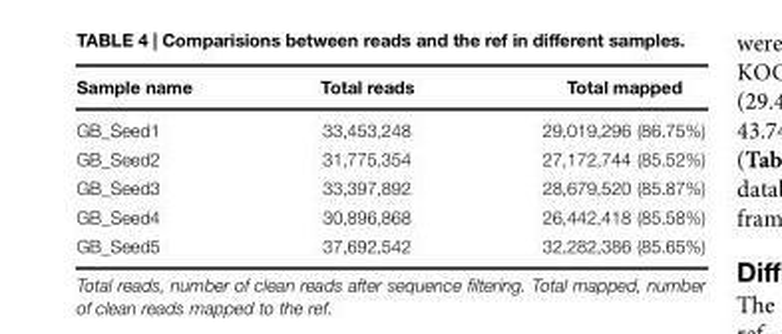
<table><thead><tr><td>Sample name</td><td>Total reads</td><td>Total mapped</td></tr></thead><tbody><tr><td>GB_Seed1</td><td>33,453,248</td><td>29,019,296 (86.75%)</td></tr><tr><td>GB_Seed2</td><td>31,775,354</td><td>27,172,744 (85.52%)</td></tr><tr><td>GB_Seed3</td><td>33,397,892</td><td>28,679,520 (85.87%)</td></tr><tr><td>GB_Seed4</td><td>30,896,868</td><td>26,442,418 (85.58%)</td></tr><tr><td>GB_Seed5</td><td>37,692,542</td><td>32,282,386 (85.65%)</td></tr></tbody></table>